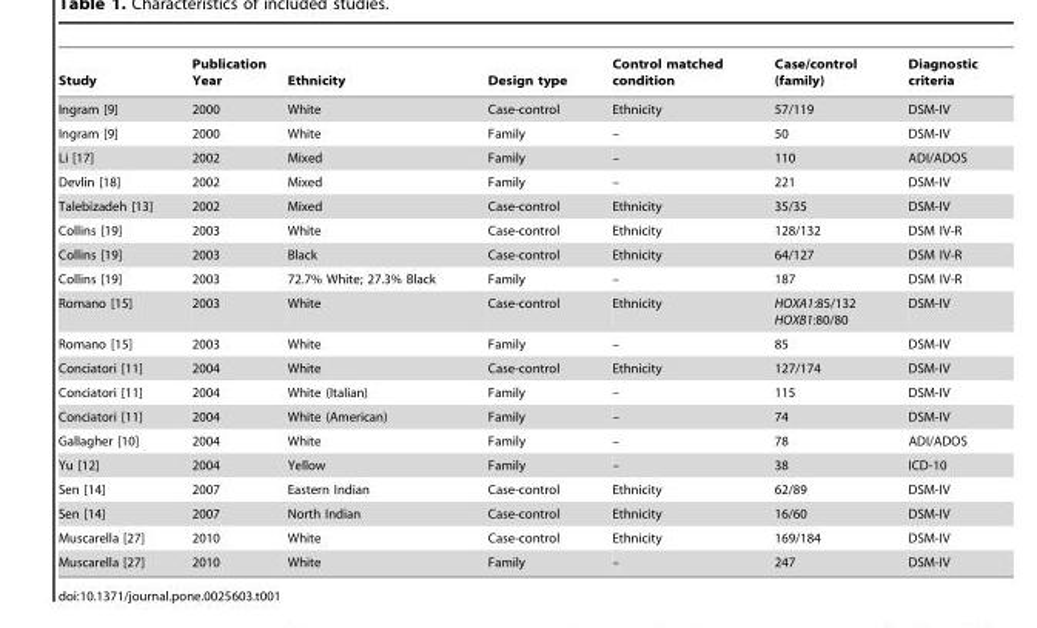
<table><thead><tr><td>Study</td><td>Publication Year</td><td>Ethnicity</td><td>Design type</td><td>Control matched condition</td><td>Case/control (family)</td><td>Diagnostic criteria</td></tr></thead><tbody><tr><td>Ingram [9]</td><td>2000</td><td>White</td><td>Case-control</td><td>Ethnicity</td><td>57/119</td><td>DSM-IV</td></tr><tr><td>Ingram [9]</td><td>2000</td><td>White</td><td>Family</td><td>–</td><td>50</td><td>DSM-IV</td></tr><tr><td>Li [17]</td><td>2002</td><td>Mixed</td><td>Family</td><td>–</td><td>110</td><td>ADI/ADOS</td></tr><tr><td>Devlin [18]</td><td>2002</td><td>Mixed</td><td>Family</td><td>–</td><td>221</td><td>DSM-IV</td></tr><tr><td>Talebizadeh [13]</td><td>2002</td><td>Mixed</td><td>Case-control</td><td>Ethnicity</td><td>35/35</td><td>DSM-IV</td></tr><tr><td>Collins [19]</td><td>2003</td><td>White</td><td>Case-control</td><td>Ethnicity</td><td>128/132</td><td>DSM IV-R</td></tr><tr><td>Collins [19]</td><td>2003</td><td>Black</td><td>Case-control</td><td>Ethnicity</td><td>64/127</td><td>DSM IV-R</td></tr><tr><td>Collins [19]</td><td>2003</td><td>72.7% White; 27.3% Black</td><td>Family</td><td>–</td><td>187</td><td>DSM IV-R</td></tr><tr><td>Romano [15]</td><td>2003</td><td>White</td><td>Case-control</td><td>Ethnicity</td><td>HOXA1:85/132 HOXB1:80/80</td><td>DSM-IV</td></tr><tr><td>Romano [15]</td><td>2003</td><td>White</td><td>Family</td><td>–</td><td>85</td><td>DSM-IV</td></tr><tr><td>Conciatori [11]</td><td>2004</td><td>White</td><td>Case-control</td><td>Ethnicity</td><td>127/174</td><td>DSM-IV</td></tr><tr><td>Conciatori [11]</td><td>2004</td><td>White (Italian)</td><td>Family</td><td>–</td><td>115</td><td>DSM-IV</td></tr><tr><td>Conciatori [11]</td><td>2004</td><td>White (American)</td><td>Family</td><td>–</td><td>74</td><td>DSM-IV</td></tr><tr><td>Gallagher [10]</td><td>2004</td><td>White</td><td>Family</td><td>–</td><td>78</td><td>ADI/ADOS</td></tr><tr><td>Yu [12]</td><td>2004</td><td>Yellow</td><td>Family</td><td>–</td><td>38</td><td>ICD-10</td></tr><tr><td>Sen [14]</td><td>2007</td><td>Eastern Indian</td><td>Case-control</td><td>Ethnicity</td><td>62/89</td><td>DSM-IV</td></tr><tr><td>Sen [14]</td><td>2007</td><td>North Indian</td><td>Case-control</td><td>Ethnicity</td><td>16/60</td><td>DSM-IV</td></tr><tr><td>Muscarella [27]</td><td>2010</td><td>White</td><td>Case-control</td><td>Ethnicity</td><td>169/184</td><td>DSM-IV</td></tr><tr><td>Muscarella [27]</td><td>2010</td><td>White</td><td>Family</td><td>–</td><td>247</td><td>DSM-IV</td></tr></tbody></table>